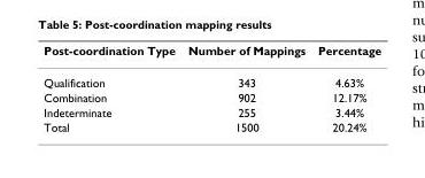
<table><thead><tr><td>Post-coordination Type</td><td>Number of Mappings</td><td>Percentage</td></tr></thead><tbody><tr><td>Qualification</td><td>343</td><td>4.63%</td></tr><tr><td>Combination</td><td>902</td><td>12.17%</td></tr><tr><td>Indeterminate</td><td>255</td><td>3.44%</td></tr><tr><td>Total</td><td>1500</td><td>20.24%</td></tr></tbody></table>